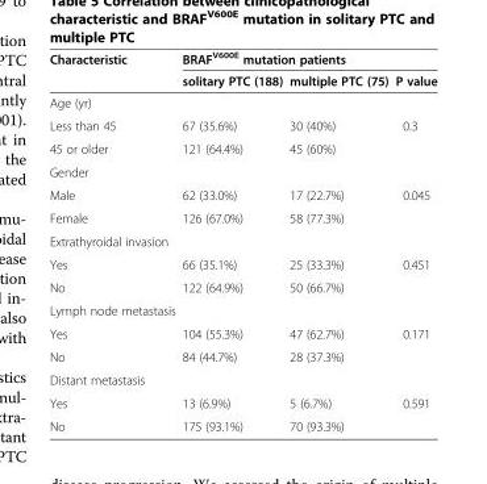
<table><thead><tr><td rowspan="2">Characteristic</td><td colspan="3">BRAF<sup>V600E</sup> mutation patients</td></tr><tr><td>solitary PTC (188)</td><td>multiple PTC (75)</td><td>P value</td></tr></thead><tbody><tr><td colspan="4">Age (yr)</td></tr><tr><td>Less than 45</td><td>67 (35.6%)</td><td>30 (40%)</td><td>0.3</td></tr><tr><td>45 or older</td><td>121 (64.4%)</td><td>45 (60%)</td><td></td></tr><tr><td colspan="4">Gender</td></tr><tr><td>Male</td><td>62 (33.0%)</td><td>17 (22.7%)</td><td>0.045</td></tr><tr><td>Female</td><td>126 (67.0%)</td><td>58 (77.3%)</td><td></td></tr><tr><td colspan="4">Extrathyroidal invasion</td></tr><tr><td>Yes</td><td>66 (35.1%)</td><td>25 (33.3%)</td><td>0.451</td></tr><tr><td>No</td><td>122 (64.9%)</td><td>50 (66.7%)</td><td></td></tr><tr><td colspan="4">Lymph node metastasis</td></tr><tr><td>Yes</td><td>104 (55.3%)</td><td>47 (62.7%)</td><td>0.171</td></tr><tr><td>No</td><td>84 (44.7%)</td><td>28 (37.3%)</td><td></td></tr><tr><td colspan="4">Distant metastasis</td></tr><tr><td>Yes</td><td>13 (6.9%)</td><td>5 (6.7%)</td><td>0.591</td></tr><tr><td>No</td><td>175 (93.1%)</td><td>70 (93.3%)</td><td></td></tr></tbody></table>